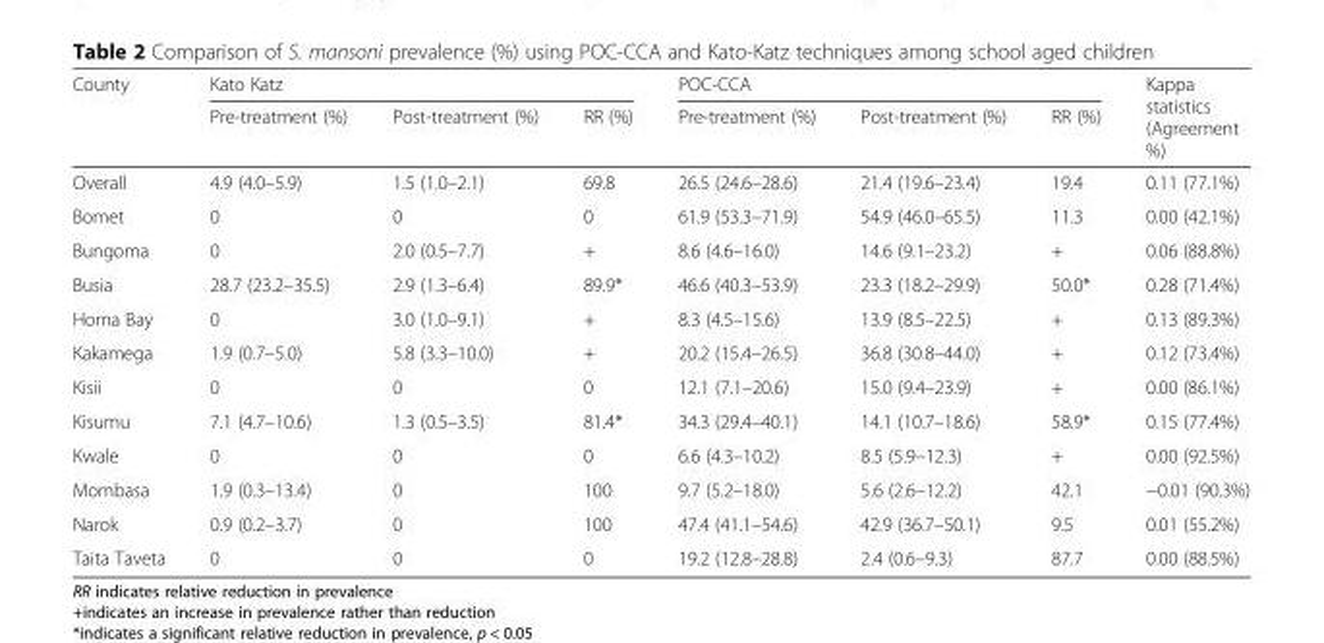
<table><thead><tr><td rowspan="2">County</td><td colspan="3">Kato Katz</td><td colspan="3">POC-CCA</td><td rowspan="2">Kappa statistics (Agreement %)</td></tr><tr><td>Pre-treatment (%)</td><td>Post-treatment (%)</td><td>RR (%)</td><td>Pre-treatment (%)</td><td>Post-treatment (%)</td><td>RR (%)</td></tr></thead><tbody><tr><td>Overall</td><td>4.9 (4.0–5.9)</td><td>1.5 (1.0–2.1)</td><td>69.8</td><td>26.5 (24.6–28.6)</td><td>21.4 (19.6–23.4)</td><td>19.4</td><td>0.11 (77.1%)</td></tr><tr><td>Bomet</td><td>0</td><td>0</td><td>0</td><td>61.9 (53.3–71.9)</td><td>54.9 (46.0–65.5)</td><td>11.3</td><td>0.00 (42.1%)</td></tr><tr><td>Bungoma</td><td>0</td><td>2.0 (0.5–7.7)</td><td>+</td><td>8.6 (4.6–16.0)</td><td>14.6 (9.1–23.2)</td><td>+</td><td>0.06 (88.8%)</td></tr><tr><td>Busia</td><td>28.7 (23.2–35.5)</td><td>2.9 (1.3–6.4)</td><td>89.9*</td><td>46.6 (40.3–53.9)</td><td>23.3 (18.2–29.9)</td><td>50.0*</td><td>0.28 (71.4%)</td></tr><tr><td>Homa Bay</td><td>0</td><td>3.0 (1.0–9.1)</td><td>+</td><td>8.3 (4.5–15.6)</td><td>13.9 (8.5–22.5)</td><td>+</td><td>0.13 (89.3%)</td></tr><tr><td>Kakamega</td><td>1.9 (0.7–5.0)</td><td>5.8 (3.3–10.0)</td><td>+</td><td>20.2 (15.4–26.5)</td><td>36.8 (30.8–44.0)</td><td>+</td><td>0.12 (73.4%)</td></tr><tr><td>Kisii</td><td>0</td><td>0</td><td>0</td><td>12.1 (7.1–20.6)</td><td>15.0 (9.4–23.9)</td><td>+</td><td>0.00 (86.1%)</td></tr><tr><td>Kisumu</td><td>7.1 (4.7–10.6)</td><td>1.3 (0.5–3.5)</td><td>81.4*</td><td>34.3 (29.4–40.1)</td><td>14.1 (10.7–18.6)</td><td>58.9*</td><td>0.15 (77.4%)</td></tr><tr><td>Kwale</td><td>0</td><td>0</td><td>0</td><td>6.6 (4.3–10.2)</td><td>8.5 (5.9–12.3)</td><td>+</td><td>0.00 (92.5%)</td></tr><tr><td>Mombasa</td><td>1.9 (0.3–13.4)</td><td>0</td><td>100</td><td>9.7 (5.2–18.0)</td><td>5.6 (2.6–12.2)</td><td>42.1</td><td>−0.01 (90.3%)</td></tr><tr><td>Narok</td><td>0.9 (0.2–3.7)</td><td>0</td><td>100</td><td>47.4 (41.1–54.6)</td><td>42.9 (36.7–50.1)</td><td>9.5</td><td>0.01 (55.2%)</td></tr><tr><td>Taita Taveta</td><td>0</td><td>0</td><td>0</td><td>19.2 (12.8–28.8)</td><td>2.4 (0.6–9.3)</td><td>87.7</td><td>0.00 (88.5%)</td></tr></tbody></table>